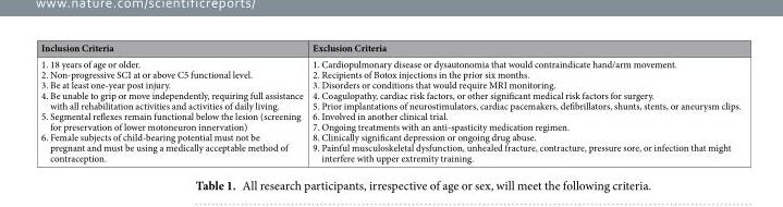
<table><thead><tr><td>Inclusion Criteria</td><td>Exclusion Criteria</td></tr></thead><tbody><tr><td>1. 18 years of age or older. 2. Non-progressive SCI at or above C5 functional level. 3. Be at least one-year post injury. 4. Be unable to grip or move independently, requiring full assistance with all rehabilitation activities and activities of daily living. 5. Segmental reflexes remain functional below the lesion (screening for preservation of lower motoneuron innervation) 6. Female subjects of child-bearing potential must not be pregnant and must be using a medically acceptable method of contraception.</td><td>1. Cardiopulmonary disease or dysautonomia that would contraindicate hand/arm movement. 2. Recipients of Botox injections in the prior six months. 3. Disorders or conditions that would require MRI monitoring. 4. Coagulopathy, cardiac risk factors, or other significant medical risk factors for surgery. 5. Prior implantations of neurostimulators, cardiac pacemakers, defibrillators, shunts, stents, or aneurysm clips. 6. Involved in another clinical trial. 7. Ongoing treatments with an anti-spasticity medication regimen. 8. Clinically significant depression or ongoing drug abuse. 9. Painful musculoskeletal dysfunction, unhealed fracture, contracture, pressure sore, or infection that might interfere with upper extremity training.</td></tr></tbody></table>